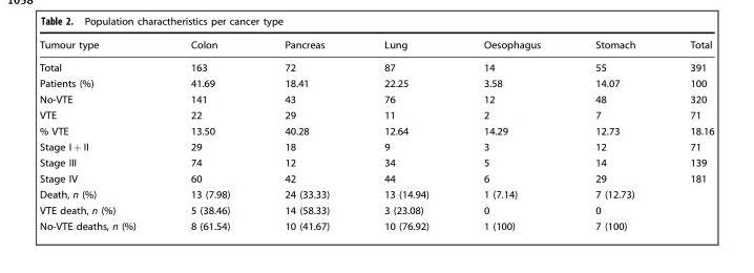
<table><thead><tr><td>Tumour type</td><td>Colon</td><td>Pancreas</td><td>Lung</td><td>Oesophagus</td><td>Stomach</td><td>Total</td></tr></thead><tbody><tr><td>Total</td><td>163</td><td>72</td><td>87</td><td>14</td><td>55</td><td>391</td></tr><tr><td>Patients (%)</td><td>41.69</td><td>18.41</td><td>22.25</td><td>3.58</td><td>14.07</td><td>100</td></tr><tr><td>No-VTE</td><td>141</td><td>43</td><td>76</td><td>12</td><td>48</td><td>320</td></tr><tr><td>VTE</td><td>22</td><td>29</td><td>11</td><td>2</td><td>7</td><td>71</td></tr><tr><td>% VTE</td><td>13.50</td><td>40.28</td><td>12.64</td><td>14.29</td><td>12.73</td><td>18.16</td></tr><tr><td>Stage I + II</td><td>29</td><td>18</td><td>9</td><td>3</td><td>12</td><td>71</td></tr><tr><td>Stage III</td><td>74</td><td>12</td><td>34</td><td>5</td><td>14</td><td>139</td></tr><tr><td>Stage IV</td><td>60</td><td>42</td><td>44</td><td>6</td><td>29</td><td>181</td></tr><tr><td>Death, n (%)</td><td>13 (7.98)</td><td>24 (33.33)</td><td>13 (14.94)</td><td>1 (7.14)</td><td>7 (12.73)</td><td></td></tr><tr><td>VTE death, n (%)</td><td>5 (38.46)</td><td>14 (58.33)</td><td>3 (23.08)</td><td>0</td><td>0</td><td></td></tr><tr><td>No-VTE deaths, n (%)</td><td>8 (61.54)</td><td>10 (41.67)</td><td>10 (76.92)</td><td>1 (100)</td><td>7 (100)</td><td></td></tr></tbody></table>